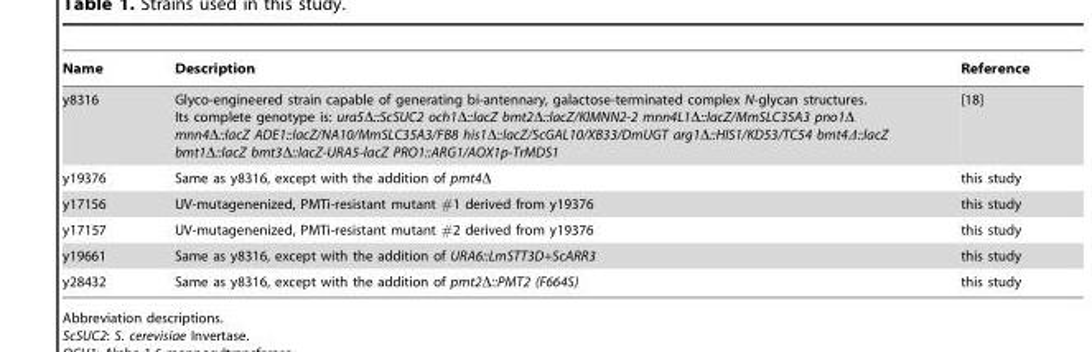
<table><thead><tr><td>Name</td><td>Description</td><td>Reference</td></tr></thead><tbody><tr><td>y8316</td><td>Glyco-engineered strain capable of generating bi-antennary, galactose-terminated complex N-glycan structures. Its complete genotype is: ura5Δ::ScSUC2 och1Δ::lacZ bmt2Δ::lacZ/KlMNN2-2 mnn4L1Δ::lacZ/MmSLC35A3 pno1Δ mnn4Δ::lacZ ADE1::lacZ/NA10/MmSLC35A3/FB8 his1Δ::lacZ/ScGAL10/XB33/DmUGT arg1Δ::HIS1/KD53/TC54 bmt4Δ::lacZ bmt1Δ::lacZ bmt3Δ::lacZ-URA5-lacZ PRO1::ARG1/AOX1p-TrMDS1</td><td>[18]</td></tr><tr><td>y19376</td><td>Same as y8316, except with the addition of pmt4Δ</td><td>this study</td></tr><tr><td>y17156</td><td>UV-mutagenenized, PMTi-resistant mutant #1 derived from y19376</td><td>this study</td></tr><tr><td>y17157</td><td>UV-mutagenenized, PMTi-resistant mutant #2 derived from y19376</td><td>this study</td></tr><tr><td>y19661</td><td>Same as y8316, except with the addition of URA6::LmSTT3D+ScARR3</td><td>this study</td></tr><tr><td>y28432</td><td>Same as y8316, except with the addition of pmt2Δ::PMT2 (F664S)</td><td>this study</td></tr></tbody></table>